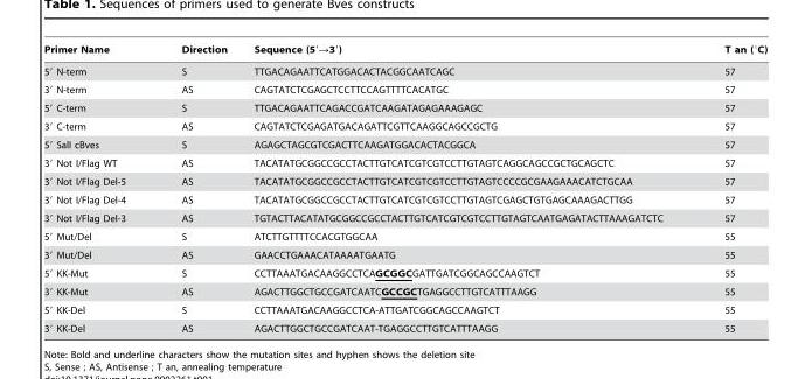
<table><thead><tr><td>Primer Name</td><td>Direction</td><td>Sequence (5′→3′)</td><td>T an (°C)</td></tr></thead><tbody><tr><td>5′ N-term</td><td>S</td><td>TTGACAGAATTCATGGACACTACGGCAATCAGC</td><td>57</td></tr><tr><td>3′ N-term</td><td>AS</td><td>CAGTATCTCGAGCTCCTTCCAGTTTTCACATGC</td><td>57</td></tr><tr><td>5′ C-term</td><td>S</td><td>TTGACAGAATTCAGACCGATCAAGATAGAGAAAGAGC</td><td>57</td></tr><tr><td>3′ C-term</td><td>AS</td><td>CAGTATCTCGAGATGACAGATTCGTTCAAGGCAGCCGCTG</td><td>57</td></tr><tr><td>5′ SalI cBves</td><td>S</td><td>AGAGCTAGCGTCGACTTCAAGATGGACACTACGGCA</td><td>57</td></tr><tr><td>3′ Not I/Flag WT</td><td>AS</td><td>TACATATGCGGCCGCCTACTTGTCATCGTCGTCCTTGTAGTCAGGCAGCCGCTGCAGCTC</td><td>57</td></tr><tr><td>3′ Not I/Flag Del-5</td><td>AS</td><td>TACATATGCGGCCGCCTACTTGTCATCGTCGTCCTTGTAGTCCCCGCGAAGAAACATCTGCAA</td><td>57</td></tr><tr><td>3′ Not I/Flag Del-4</td><td>AS</td><td>TACATATGCGGCCGCCTACTTGTCATCGTCGTCCTTGTAGTCGAGCTGTGAGCAAAGACTTGG</td><td>57</td></tr><tr><td>3′ Not I/Flag Del-3</td><td>AS</td><td>TGTACTTACATATGCGGCCGCCTACTTGTCATCGTCGTCCTTGTAGTCAATGAGATACTTAAAGATCTC</td><td>57</td></tr><tr><td>5′ Mut/Del</td><td>S</td><td>ATCTTGTTTTCCACGTGGCAA</td><td>55</td></tr><tr><td>3′ Mut/Del</td><td>AS</td><td>GAACCTGAAACATAAAATGAATG</td><td>55</td></tr><tr><td>5′ KK-Mut</td><td>S</td><td>CCTTAAATGACAAGGCCTCAGCGGCGATTGATCGGCAGCCAAGTCT</td><td>55</td></tr><tr><td>3′ KK-Mut</td><td>AS</td><td>AGACTTGGCTGCCGATCAATCGCCGCTGAGGCCTTGTCATTTAAGG</td><td>55</td></tr><tr><td>5′ KK-Del</td><td>S</td><td>CCTTAAATGACAAGGCCTCA-ATTGATCGGCAGCCAAGTCT</td><td>55</td></tr><tr><td>3′ KK-Del</td><td>AS</td><td>AGACTTGGCTGCCGATCAAT-TGAGGCCTTGTCATTTAAGG</td><td>55</td></tr></tbody></table>